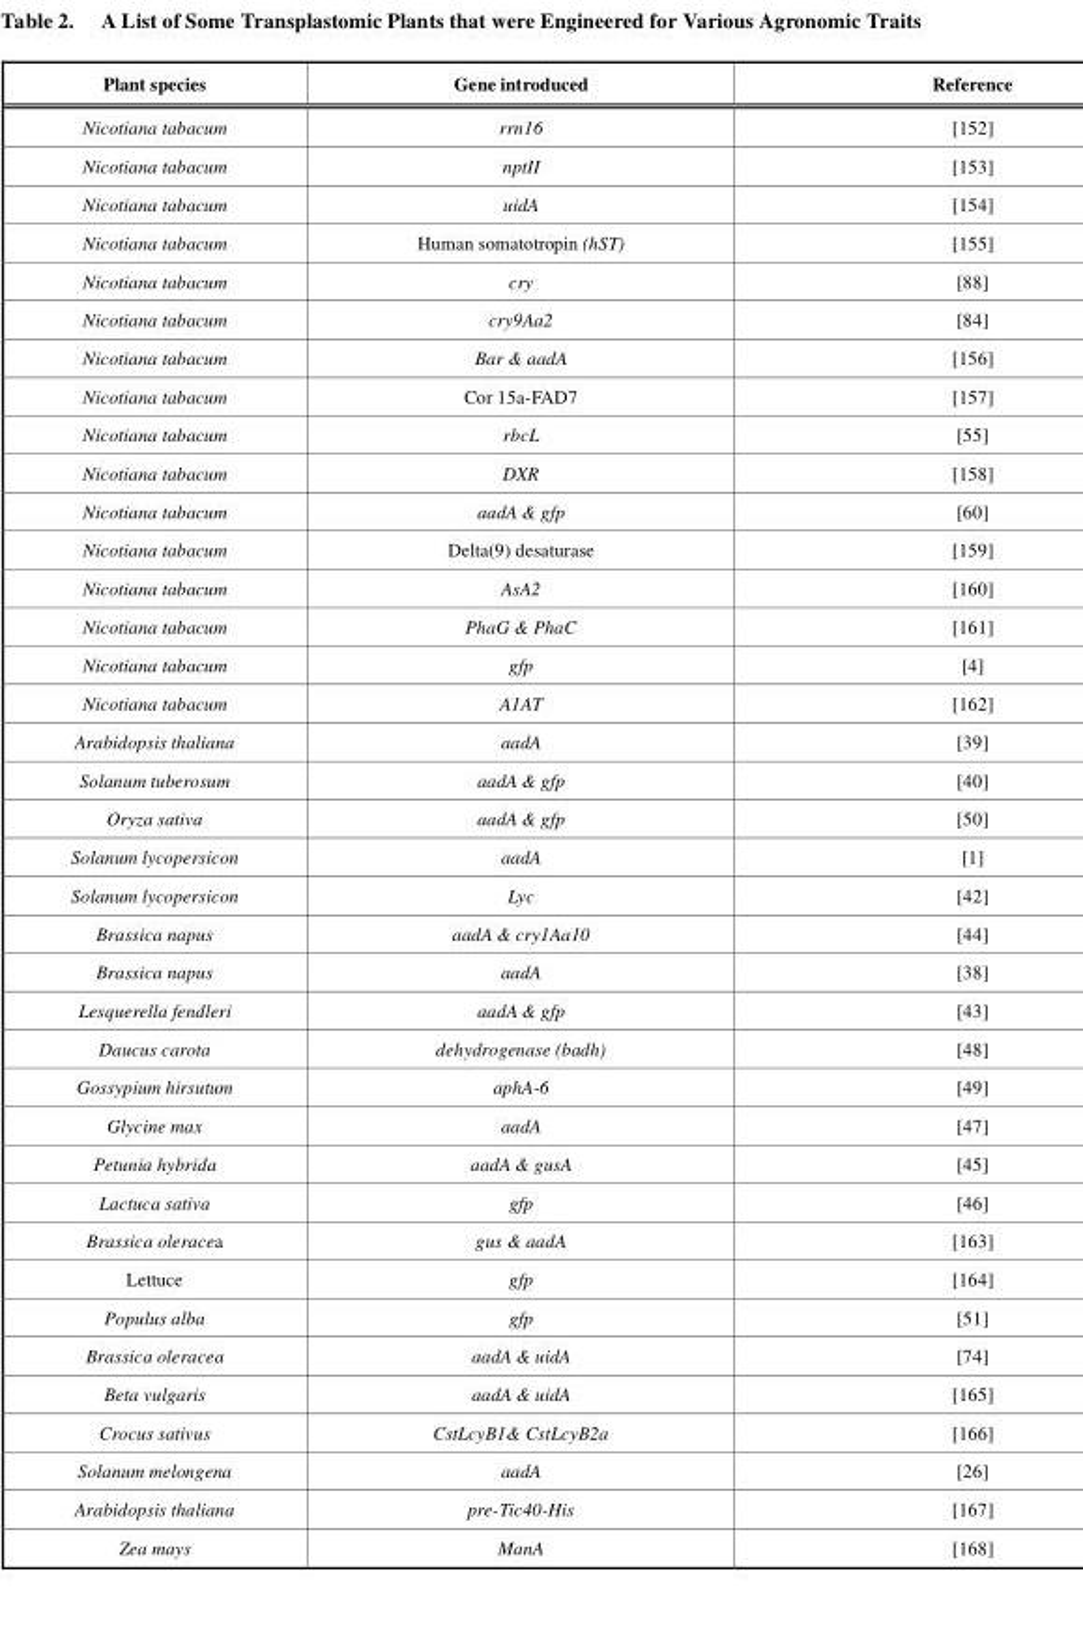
<table><thead><tr><td>Plant species</td><td>Gene introduced</td><td>Reference</td></tr></thead><tbody><tr><td>Nicotiana tabacum</td><td>rrn16</td><td>[152]</td></tr><tr><td>Nicotiana tabacum</td><td>nptII</td><td>[153]</td></tr><tr><td>Nicotiana tabacum</td><td>uidA</td><td>[154]</td></tr><tr><td>Nicotiana tabacum</td><td>Human somatotropin (hST)</td><td>[155]</td></tr><tr><td>Nicotiana tabacum</td><td>cry</td><td>[88]</td></tr><tr><td>Nicotiana tabacum</td><td>cry9Aa2</td><td>[84]</td></tr><tr><td>Nicotiana tabacum</td><td>Bar &amp; aadA</td><td>[156]</td></tr><tr><td>Nicotiana tabacum</td><td>Cor 15a-FAD7</td><td>[157]</td></tr><tr><td>Nicotiana tabacum</td><td>rbcL</td><td>[55]</td></tr><tr><td>Nicotiana tabacum</td><td>DXR</td><td>[158]</td></tr><tr><td>Nicotiana tabacum</td><td>aadA &amp; gfp</td><td>[60]</td></tr><tr><td>Nicotiana tabacum</td><td>Delta(9) desaturase</td><td>[159]</td></tr><tr><td>Nicotiana tabacum</td><td>AsA2</td><td>[160]</td></tr><tr><td>Nicotiana tabacum</td><td>PhaG &amp; PhaC</td><td>[161]</td></tr><tr><td>Nicotiana tabacum</td><td>gfp</td><td>[4]</td></tr><tr><td>Nicotiana tabacum</td><td>A1AT</td><td>[162]</td></tr><tr><td>Arabidopsis thaliana</td><td>aadA</td><td>[39]</td></tr><tr><td>Solanum tuberosum</td><td>aadA &amp; gfp</td><td>[40]</td></tr><tr><td>Oryza sativa</td><td>aadA &amp; gfp</td><td>[50]</td></tr><tr><td>Solanum lycopersicon</td><td>aadA</td><td>[1]</td></tr><tr><td>Solanum lycopersicon</td><td>Lyc</td><td>[42]</td></tr><tr><td>Brassica napus</td><td>aadA &amp; cry1Aa10</td><td>[44]</td></tr><tr><td>Brassica napus</td><td>aadA</td><td>[38]</td></tr><tr><td>Lesquerella fendleri</td><td>aadA &amp; gfp</td><td>[43]</td></tr><tr><td>Daucus carota</td><td>dehydrogenase (badh)</td><td>[48]</td></tr><tr><td>Gossypium hirsutum</td><td>aphA-6</td><td>[49]</td></tr><tr><td>Glycine max</td><td>aadA</td><td>[47]</td></tr><tr><td>Petunia hybrida</td><td>aadA &amp; gusA</td><td>[45]</td></tr><tr><td>Lactuca sativa</td><td>gfp</td><td>[46]</td></tr><tr><td>Brassica oleracea</td><td>gus &amp; aadA</td><td>[163]</td></tr><tr><td>Lettuce</td><td>gfp</td><td>[164]</td></tr><tr><td>Populus alba</td><td>gfp</td><td>[51]</td></tr><tr><td>Brassica oleracea</td><td>aadA &amp; uidA</td><td>[74]</td></tr><tr><td>Beta vulgaris</td><td>aadA &amp; uidA</td><td>[165]</td></tr><tr><td>Crocus sativus</td><td>CstLcyB1&amp; CstLcyB2a</td><td>[166]</td></tr><tr><td>Solanum melongena</td><td>aadA</td><td>[26]</td></tr><tr><td>Arabidopsis thaliana</td><td>pre-Tic40-His</td><td>[167]</td></tr><tr><td>Zea mays</td><td>ManA</td><td>[168]</td></tr></tbody></table>